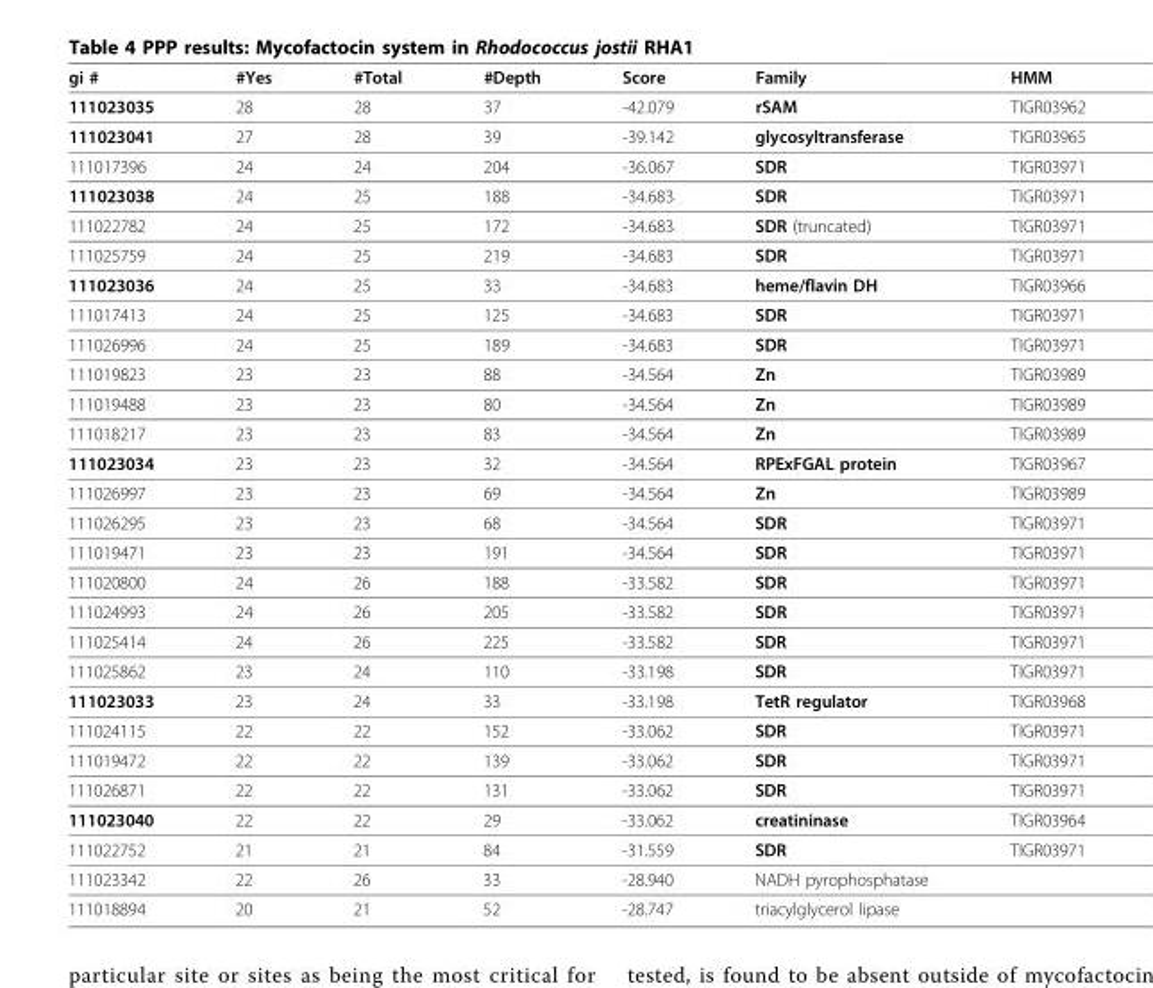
<table><thead><tr><td>gi #</td><td>#Yes</td><td>#Total</td><td>#Depth</td><td>Score</td><td>Family</td><td>HMM</td></tr></thead><tbody><tr><td>111023035</td><td>28</td><td>28</td><td>37</td><td>-42.079</td><td>rSAM</td><td>TIGR03962</td></tr><tr><td>111023041</td><td>27</td><td>28</td><td>39</td><td>-39.142</td><td>glycosyltransferase</td><td>TIGR03965</td></tr><tr><td>111017396</td><td>24</td><td>24</td><td>204</td><td>-36.067</td><td>SDR</td><td>TIGR03971</td></tr><tr><td>111023038</td><td>24</td><td>25</td><td>188</td><td>-34.683</td><td>SDR</td><td>TIGR03971</td></tr><tr><td>111022782</td><td>24</td><td>25</td><td>172</td><td>-34.683</td><td>SDR (truncated)</td><td>TIGR03971</td></tr><tr><td>111025759</td><td>24</td><td>25</td><td>219</td><td>-34.683</td><td>SDR</td><td>TIGR03971</td></tr><tr><td>111023036</td><td>24</td><td>25</td><td>33</td><td>-34.683</td><td>heme/flavin DH</td><td>TIGR03966</td></tr><tr><td>111017413</td><td>24</td><td>25</td><td>125</td><td>-34.683</td><td>SDR</td><td>TIGR03971</td></tr><tr><td>111026996</td><td>24</td><td>25</td><td>189</td><td>-34.683</td><td>SDR</td><td>TIGR03971</td></tr><tr><td>111019823</td><td>23</td><td>23</td><td>88</td><td>-34.564</td><td>Zn</td><td>TIGR03989</td></tr><tr><td>111019488</td><td>23</td><td>23</td><td>80</td><td>-34.564</td><td>Zn</td><td>TIGR03989</td></tr><tr><td>111018217</td><td>23</td><td>23</td><td>83</td><td>-34.564</td><td>Zn</td><td>TIGR03989</td></tr><tr><td>111023034</td><td>23</td><td>23</td><td>32</td><td>-34.564</td><td>RPExFGAL protein</td><td>TIGR03967</td></tr><tr><td>111026997</td><td>23</td><td>23</td><td>69</td><td>-34.564</td><td>Zn</td><td>TIGR03989</td></tr><tr><td>111026295</td><td>23</td><td>23</td><td>68</td><td>-34.564</td><td>SDR</td><td>TIGR03971</td></tr><tr><td>111019471</td><td>23</td><td>23</td><td>191</td><td>-34.564</td><td>SDR</td><td>TIGR03971</td></tr><tr><td>111020800</td><td>24</td><td>26</td><td>188</td><td>-33.582</td><td>SDR</td><td>TIGR03971</td></tr><tr><td>111024993</td><td>24</td><td>26</td><td>205</td><td>-33.582</td><td>SDR</td><td>TIGR03971</td></tr><tr><td>111025414</td><td>24</td><td>26</td><td>225</td><td>-33.582</td><td>SDR</td><td>TIGR03971</td></tr><tr><td>111025862</td><td>23</td><td>24</td><td>110</td><td>-33.198</td><td>SDR</td><td>TIGR03971</td></tr><tr><td>111023033</td><td>23</td><td>24</td><td>33</td><td>-33.198</td><td>TetR regulator</td><td>TIGR03968</td></tr><tr><td>111024115</td><td>22</td><td>22</td><td>152</td><td>-33.062</td><td>SDR</td><td>TIGR03971</td></tr><tr><td>111019472</td><td>22</td><td>22</td><td>139</td><td>-33.062</td><td>SDR</td><td>TIGR03971</td></tr><tr><td>111026871</td><td>22</td><td>22</td><td>131</td><td>-33.062</td><td>SDR</td><td>TIGR03971</td></tr><tr><td>111023040</td><td>22</td><td>22</td><td>29</td><td>-33.062</td><td>creatininase</td><td>TIGR03964</td></tr><tr><td>111022752</td><td>21</td><td>21</td><td>84</td><td>-31.559</td><td>SDR</td><td>TIGR03971</td></tr><tr><td>111023342</td><td>22</td><td>26</td><td>33</td><td>-28.940</td><td>NADH pyrophosphatase</td><td></td></tr><tr><td>111018894</td><td>20</td><td>21</td><td>52</td><td>-28.747</td><td>triacylglycerol lipase</td><td></td></tr></tbody></table>